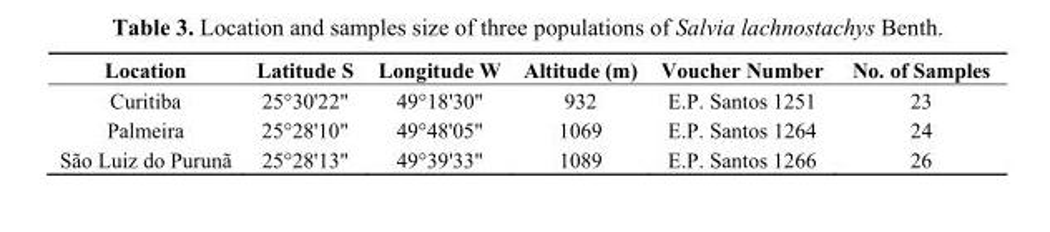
<table><thead><tr><td>Location</td><td>Latitude S</td><td>Longitude W</td><td>Altitude (m)</td><td>Voucher Number</td><td>No. of Samples</td></tr></thead><tbody><tr><td>Curitiba</td><td>25°30&#x27;22&quot;</td><td>49°18&#x27;30&quot;</td><td>932</td><td>E.P. Santos 1251</td><td>23</td></tr><tr><td>Palmeira</td><td>25°28&#x27;10&quot;</td><td>49°48&#x27;05&quot;</td><td>1069</td><td>E.P. Santos 1264</td><td>24</td></tr><tr><td>São Luiz do Purunã</td><td>25°28&#x27;13&quot;</td><td>49°39&#x27;33&quot;</td><td>1089</td><td>E.P. Santos 1266</td><td>26</td></tr></tbody></table>